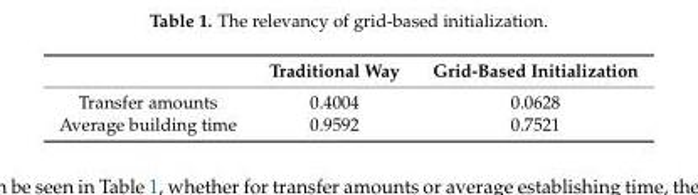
<table><thead><tr><td></td><td>Traditional Way</td><td>Grid-Based Initialization</td></tr></thead><tbody><tr><td>Transfer amounts</td><td>0.4004</td><td>0.0628</td></tr><tr><td>Average building time</td><td>0.9592</td><td>0.7521</td></tr></tbody></table>